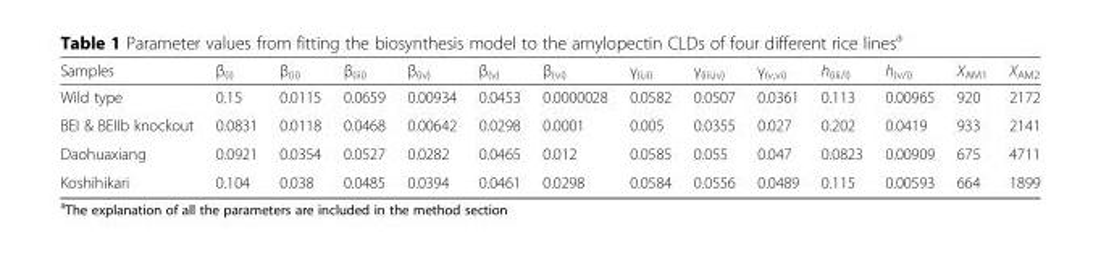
<table><thead><tr><td>Samples</td><td>β<sub>(i)</sub></td><td>β<sub>(ii)</sub></td><td>β<sub>(iii)</sub></td><td>β<sub>(iv)</sub></td><td>β<sub>(v)</sub></td><td>β<sub>(vi)</sub></td><td>γ<sub>(i,ii)</sub></td><td>γ<sub>(iii,iv)</sub></td><td>γ<sub>(v,vi)</sub></td><td>h<sub>(iii/i)</sub></td><td>h<sub>(v/i)</sub></td><td>X<sub>AM1</sub></td><td>X<sub>AM2</sub></td></tr></thead><tbody><tr><td>Wild type</td><td>0.15</td><td>0.0115</td><td>0.0659</td><td>0.00934</td><td>0.0453</td><td>0.0000028</td><td>0.0582</td><td>0.0507</td><td>0.0361</td><td>0.113</td><td>0.00965</td><td>920</td><td>2172</td></tr><tr><td>BEI &amp; BEIIb knockout</td><td>0.0831</td><td>0.0118</td><td>0.0468</td><td>0.00642</td><td>0.0298</td><td>0.0001</td><td>0.005</td><td>0.0355</td><td>0.027</td><td>0.202</td><td>0.0419</td><td>933</td><td>2141</td></tr><tr><td>Daohuaxiang</td><td>0.0921</td><td>0.0354</td><td>0.0527</td><td>0.0282</td><td>0.0465</td><td>0.012</td><td>0.0585</td><td>0.055</td><td>0.047</td><td>0.0823</td><td>0.00909</td><td>675</td><td>4711</td></tr><tr><td>Koshihikari</td><td>0.104</td><td>0.038</td><td>0.0485</td><td>0.0394</td><td>0.0461</td><td>0.0298</td><td>0.0584</td><td>0.0556</td><td>0.0489</td><td>0.115</td><td>0.00593</td><td>664</td><td>1899</td></tr></tbody></table>